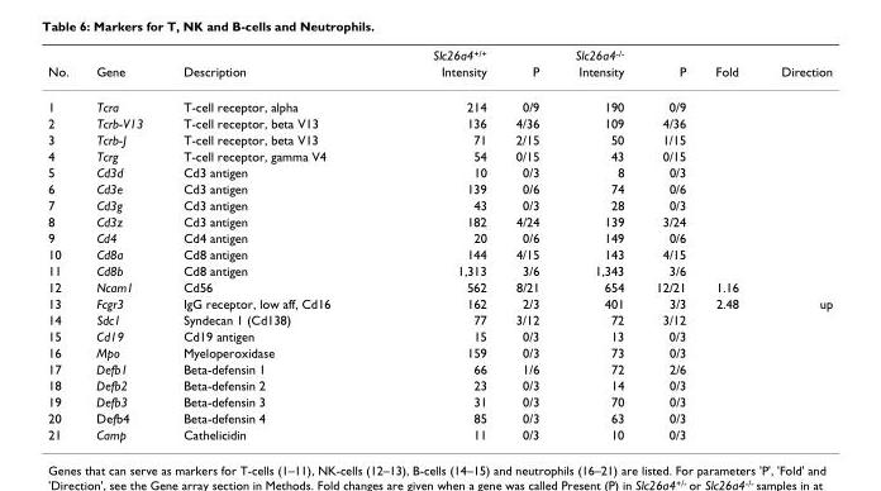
<table><thead><tr><td rowspan="2">No.</td><td rowspan="2">Gene</td><td rowspan="2">Description</td><td colspan="2">Slc26a4<sup>+/+</sup></td><td colspan="2">Slc26a4<sup>-/-</sup></td><td rowspan="2">Fold</td><td rowspan="2">Direction</td></tr><tr><td>Intensity</td><td>P</td><td>Intensity</td><td>P</td></tr></thead><tbody><tr><td>1</td><td>Tcra</td><td>T-cell receptor, alpha</td><td>214</td><td>0/9</td><td>190</td><td>0/9</td><td></td><td></td></tr><tr><td>2</td><td>Tcrb-V13</td><td>T-cell receptor, beta V13</td><td>136</td><td>4/36</td><td>109</td><td>4/36</td><td></td><td></td></tr><tr><td>3</td><td>Tcrb-J</td><td>T-cell receptor, beta V13</td><td>71</td><td>2/15</td><td>50</td><td>1/15</td><td></td><td></td></tr><tr><td>4</td><td>Tcrg</td><td>T-cell receptor, gamma V4</td><td>54</td><td>0/15</td><td>43</td><td>0/15</td><td></td><td></td></tr><tr><td>5</td><td>Cd3d</td><td>Cd3 antigen</td><td>10</td><td>0/3</td><td>8</td><td>0/3</td><td></td><td></td></tr><tr><td>6</td><td>Cd3e</td><td>Cd3 antigen</td><td>139</td><td>0/6</td><td>74</td><td>0/6</td><td></td><td></td></tr><tr><td>7</td><td>Cd3g</td><td>Cd3 antigen</td><td>43</td><td>0/3</td><td>28</td><td>0/3</td><td></td><td></td></tr><tr><td>8</td><td>Cd3z</td><td>Cd3 antigen</td><td>182</td><td>4/24</td><td>139</td><td>3/24</td><td></td><td></td></tr><tr><td>9</td><td>Cd4</td><td>Cd4 antigen</td><td>20</td><td>0/6</td><td>149</td><td>0/6</td><td></td><td></td></tr><tr><td>10</td><td>Cd8a</td><td>Cd8 antigen</td><td>144</td><td>4/15</td><td>143</td><td>4/15</td><td></td><td></td></tr><tr><td>11</td><td>Cd8b</td><td>Cd8 antigen</td><td>1,313</td><td>3/6</td><td>1,343</td><td>3/6</td><td></td><td></td></tr><tr><td>12</td><td>Ncam1</td><td>Cd56</td><td>562</td><td>8/21</td><td>654</td><td>12/21</td><td>1.16</td><td></td></tr><tr><td>13</td><td>Fcgr3</td><td>IgG receptor, low aff, Cd16</td><td>162</td><td>2/3</td><td>401</td><td>3/3</td><td>2.48</td><td>up</td></tr><tr><td>14</td><td>Sdc1</td><td>Syndecan 1 (Cd138)</td><td>77</td><td>3/12</td><td>72</td><td>3/12</td><td></td><td></td></tr><tr><td>15</td><td>Cd19</td><td>Cd19 antigen</td><td>15</td><td>0/3</td><td>13</td><td>0/3</td><td></td><td></td></tr><tr><td>16</td><td>Mpo</td><td>Myeloperoxidase</td><td>159</td><td>0/3</td><td>73</td><td>0/3</td><td></td><td></td></tr><tr><td>17</td><td>Defb1</td><td>Beta-defensin 1</td><td>66</td><td>1/6</td><td>72</td><td>2/6</td><td></td><td></td></tr><tr><td>18</td><td>Defb2</td><td>Beta-defensin 2</td><td>23</td><td>0/3</td><td>14</td><td>0/3</td><td></td><td></td></tr><tr><td>19</td><td>Defb3</td><td>Beta-defensin 3</td><td>31</td><td>0/3</td><td>70</td><td>0/3</td><td></td><td></td></tr><tr><td>20</td><td>Defb4</td><td>Beta-defensin 4</td><td>85</td><td>0/3</td><td>63</td><td>0/3</td><td></td><td></td></tr><tr><td>21</td><td>Camp</td><td>Cathelicidin</td><td>11</td><td>0/3</td><td>10</td><td>0/3</td><td></td><td></td></tr></tbody></table>